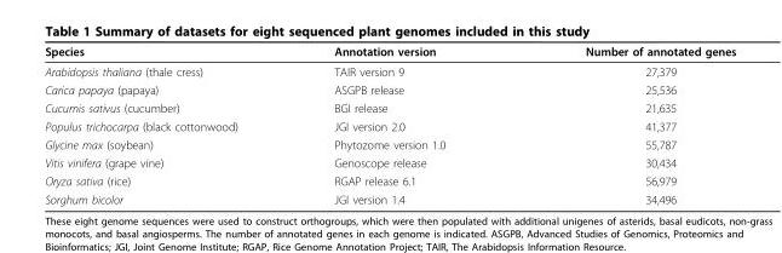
<table><thead><tr><td>Species</td><td>Annotation version</td><td>Number of annotated genes</td></tr></thead><tbody><tr><td>Arabidopsis thaliana (thale cress)</td><td>TAIR version 9</td><td>27,379</td></tr><tr><td>Carica papaya (papaya)</td><td>ASGPB release</td><td>25,536</td></tr><tr><td>Cucumis sativus (cucumber)</td><td>BGI release</td><td>21,635</td></tr><tr><td>Populus trichocarpa (black cottonwood)</td><td>JGI version 2.0</td><td>41,377</td></tr><tr><td>Glycine max (soybean)</td><td>Phytozome version 1.0</td><td>55,787</td></tr><tr><td>Vitis vinifera (grape vine)</td><td>Genoscope release</td><td>30,434</td></tr><tr><td>Oryza sativa (rice)</td><td>RGAP release 6.1</td><td>56,979</td></tr><tr><td>Sorghum bicolor</td><td>JGI version 1.4</td><td>34,496</td></tr></tbody></table>